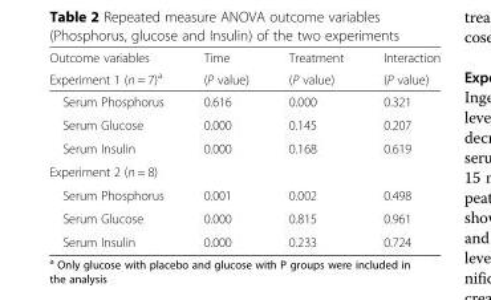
<table><thead><tr><td rowspan="2">Outcome variables Experiment 1 (n = 7)<sup>a</sup></td><td rowspan="2">Time (P value)</td><td rowspan="2">Treatment (P value)</td><td rowspan="2">Interaction (P value)</td></tr><tr></tr></thead><tbody><tr><td>Serum Phosphorus</td><td>0.616</td><td>0.000</td><td>0.321</td></tr><tr><td>Serum Glucose</td><td>0.000</td><td>0.145</td><td>0.207</td></tr><tr><td>Serum Insulin</td><td>0.000</td><td>0.168</td><td>0.619</td></tr><tr><td colspan="4">Experiment 2 (n = 8)</td></tr><tr><td>Serum Phosphorus</td><td>0.001</td><td>0.002</td><td>0.498</td></tr><tr><td>Serum Glucose</td><td>0.000</td><td>0.815</td><td>0.961</td></tr><tr><td>Serum Insulin</td><td>0.000</td><td>0.233</td><td>0.724</td></tr></tbody></table>